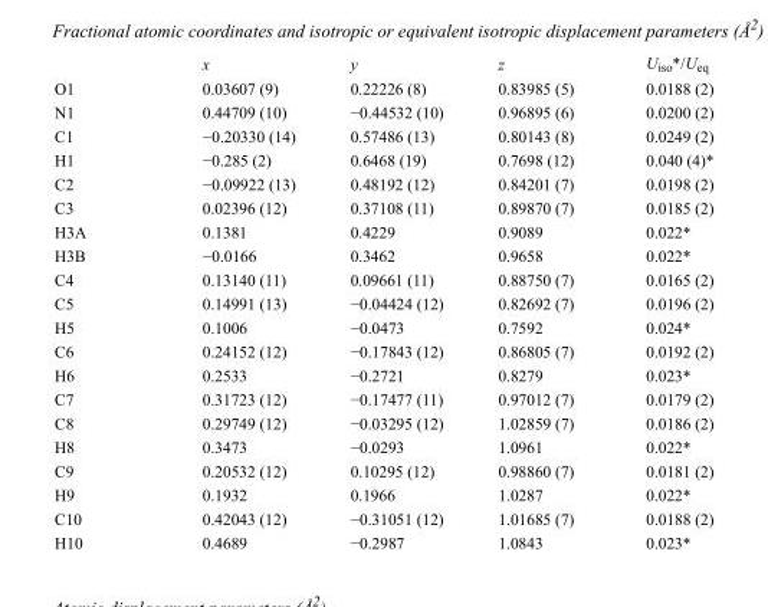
<table><thead><tr><td></td><td>x</td><td>y</td><td>z</td><td>U<sub>iso</sub>*/U<sub>eq</sub></td></tr></thead><tbody><tr><td>O1</td><td>0.03607 (9)</td><td>0.22226 (8)</td><td>0.83985 (5)</td><td>0.0188 (2)</td></tr><tr><td>N1</td><td>0.44709 (10)</td><td>−0.44532 (10)</td><td>0.96895 (6)</td><td>0.0200 (2)</td></tr><tr><td>C1</td><td>−0.20330 (14)</td><td>0.57486 (13)</td><td>0.80143 (8)</td><td>0.0249 (2)</td></tr><tr><td>H1</td><td>−0.285 (2)</td><td>0.6468 (19)</td><td>0.7698 (12)</td><td>0.040 (4)*</td></tr><tr><td>C2</td><td>−0.09922 (13)</td><td>0.48192 (12)</td><td>0.84201 (7)</td><td>0.0198 (2)</td></tr><tr><td>C3</td><td>0.02396 (12)</td><td>0.37108 (11)</td><td>0.89870 (7)</td><td>0.0185 (2)</td></tr><tr><td>H3A</td><td>0.1381</td><td>0.4229</td><td>0.9089</td><td>0.022*</td></tr><tr><td>H3B</td><td>−0.0166</td><td>0.3462</td><td>0.9658</td><td>0.022*</td></tr><tr><td>C4</td><td>0.13140 (11)</td><td>0.09661 (11)</td><td>0.88750 (7)</td><td>0.0165 (2)</td></tr><tr><td>C5</td><td>0.14991 (13)</td><td>−0.04424 (12)</td><td>0.82692 (7)</td><td>0.0196 (2)</td></tr><tr><td>H5</td><td>0.1006</td><td>−0.0473</td><td>0.7592</td><td>0.024*</td></tr><tr><td>C6</td><td>0.24152 (12)</td><td>−0.17843 (12)</td><td>0.86805 (7)</td><td>0.0192 (2)</td></tr><tr><td>H6</td><td>0.2533</td><td>−0.2721</td><td>0.8279</td><td>0.023*</td></tr><tr><td>C7</td><td>0.31723 (12)</td><td>−0.17477 (11)</td><td>0.97012 (7)</td><td>0.0179 (2)</td></tr><tr><td>C8</td><td>0.29749 (12)</td><td>−0.03295 (12)</td><td>1.02859 (7)</td><td>0.0186 (2)</td></tr><tr><td>H8</td><td>0.3473</td><td>−0.0293</td><td>1.0961</td><td>0.022*</td></tr><tr><td>C9</td><td>0.20532 (12)</td><td>0.10295 (12)</td><td>0.98860 (7)</td><td>0.0181 (2)</td></tr><tr><td>H9</td><td>0.1932</td><td>0.1966</td><td>1.0287</td><td>0.022*</td></tr><tr><td>C10</td><td>0.42043 (12)</td><td>−0.31051 (12)</td><td>1.01685 (7)</td><td>0.0188 (2)</td></tr><tr><td>H10</td><td>0.4689</td><td>−0.2987</td><td>1.0843</td><td>0.023*</td></tr></tbody></table>